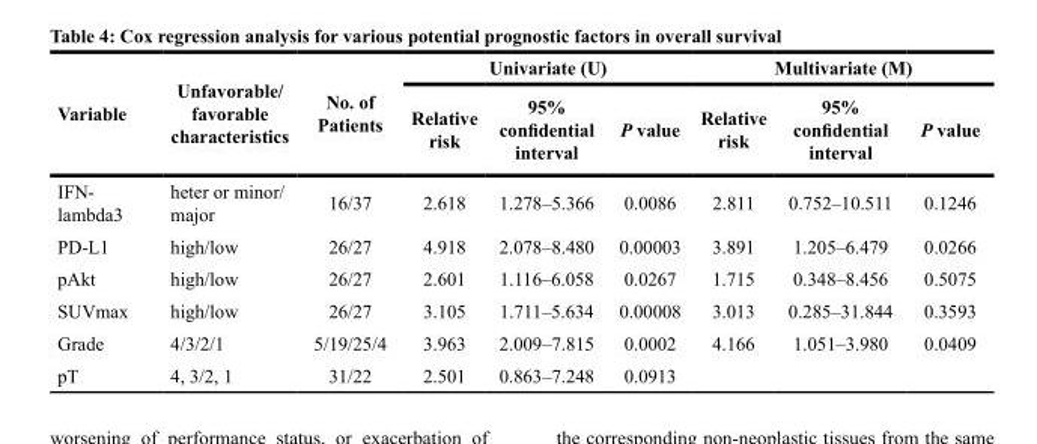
<table><thead><tr><td rowspan="2">Variable</td><td rowspan="2">Unfavorable/ favorable characteristics</td><td rowspan="2">No. of Patients</td><td colspan="3">Univariate (U)</td><td colspan="3">Multivariate (M)</td></tr><tr><td>Relative risk</td><td>95% confidential interval</td><td>P value</td><td>Relative risk</td><td>95% confidential interval</td><td>P value</td></tr></thead><tbody><tr><td>IFN- lambda3</td><td>heter or minor/ major</td><td>16/37</td><td>2.618</td><td>1.278–5.366</td><td>0.0086</td><td>2.811</td><td>0.752–10.511</td><td>0.1246</td></tr><tr><td>PD-L1</td><td>high/low</td><td>26/27</td><td>4.918</td><td>2.078–8.480</td><td>0.00003</td><td>3.891</td><td>1.205–6.479</td><td>0.0266</td></tr><tr><td>pAkt</td><td>high/low</td><td>26/27</td><td>2.601</td><td>1.116–6.058</td><td>0.0267</td><td>1.715</td><td>0.348–8.456</td><td>0.5075</td></tr><tr><td>SUVmax</td><td>high/low</td><td>26/27</td><td>3.105</td><td>1.711–5.634</td><td>0.00008</td><td>3.013</td><td>0.285–31.844</td><td>0.3593</td></tr><tr><td>Grade</td><td>4/3/2/1</td><td>5/19/25/4</td><td>3.963</td><td>2.009–7.815</td><td>0.0002</td><td>4.166</td><td>1.051–3.980</td><td>0.0409</td></tr><tr><td>pT</td><td>4, 3/2, 1</td><td>31/22</td><td>2.501</td><td>0.863–7.248</td><td>0.0913</td><td></td><td></td><td></td></tr></tbody></table>